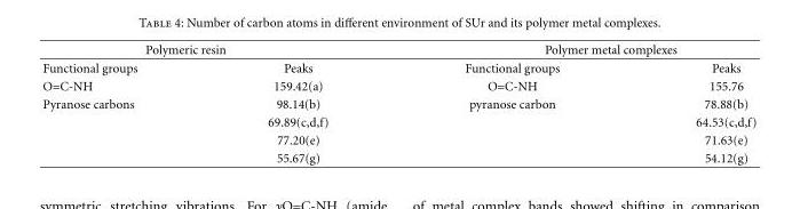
<table><thead><tr><td colspan="2">Polymeric resin</td><td colspan="2">Polymer metal complexes</td></tr><tr><td>Functional groups</td><td>Peaks</td><td>Functional groups</td><td>Peaks</td></tr></thead><tbody><tr><td>O=C-NH</td><td>159.42(a)</td><td>O=C-NH</td><td>155.76</td></tr><tr><td rowspan="4">Pyranose carbons</td><td>98.14(b)</td><td>pyranose carbon</td><td>78.88(b)</td></tr><tr><td>69.89(c,d,f)</td><td></td><td>64.53(c,d,f)</td></tr><tr><td>77.20(e)</td><td></td><td>71.63(e)</td></tr><tr><td>55.67(g)</td><td></td><td>54.12(g)</td></tr></tbody></table>